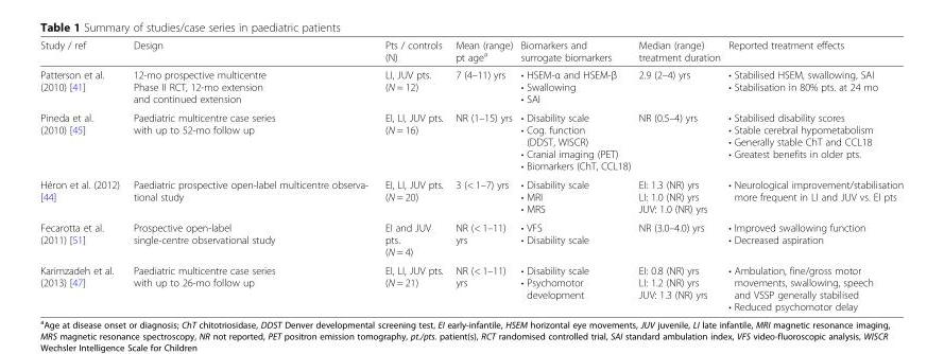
<table><thead><tr><td>Study / ref</td><td>Design</td><td>Pts / controls (N)</td><td>Mean (range) pt age<sup>a</sup></td><td>Biomarkers and surrogate biomarkers</td><td>Median (range) treatment duration</td><td>Reported treatment effects</td></tr></thead><tbody><tr><td>Patterson et al. (2010) [41]</td><td>12-mo prospective multicentre Phase II RCT, 12-mo extension and continued extension</td><td>LI, JUV pts. (N = 12)</td><td>7 (4–11) yrs</td><td>• HSEM-α and HSEM-β • Swallowing • SAI</td><td>2.9 (2–4) yrs</td><td>• Stabilised HSEM, swallowing, SAI • Stabilisation in 80% pts. at 24 mo</td></tr><tr><td>Pineda et al. (2010) [45]</td><td>Paediatric multicentre case series with up to 52-mo follow up</td><td>EI, LI, JUV pts. (N = 16)</td><td>NR (1–15) yrs</td><td>• Disability scale • Cog. function (DDST, WISCR) • Cranial imaging (PET) • Biomarkers (ChT, CCL18)</td><td>NR (0.5–4) yrs</td><td>• Stabilised disability scores • Stable cerebral hypometabolism • Generally stable ChT and CCL18 • Greatest benefits in older pts.</td></tr><tr><td>Héron et al. (2012) [44]</td><td>Paediatric prospective open-label multicentre observa- tional study</td><td>EI, LI, JUV pts. (N = 20)</td><td>3 (&lt; 1–7) yrs</td><td>• Disability scale • MRI • MRS</td><td>EI: 1.3 (NR) yrs LI: 1.0 (NR) yrs JUV: 1.0 (NR) yrs</td><td>• Neurological improvement/stabilisation more frequent in LI and JUV vs. EI pts</td></tr><tr><td>Fecarotta et al. (2011) [51]</td><td>Prospective open-label single-centre observational study</td><td>EI and JUV pts. (N = 4)</td><td>NR (&lt; 1–11) yrs</td><td>• VFS • Disability scale</td><td>NR (3.0–4.0) yrs</td><td>• Improved swallowing function • Decreased aspiration</td></tr><tr><td>Karimzadeh et al. (2013) [47]</td><td>Paediatric multicentre case series with up to 26-mo follow up</td><td>EI, LI, JUV pts. (N = 21)</td><td>NR (&lt; 1–11) yrs</td><td>• Disability scale • Psychomotor development</td><td>EI: 0.8 (NR) yrs LI: 1.2 (NR) yrs JUV: 1.3 (NR) yrs</td><td>• Ambulation, fine/gross motor movements, swallowing, speech and VSSP generally stabilised • Reduced psychomotor delay</td></tr></tbody></table>